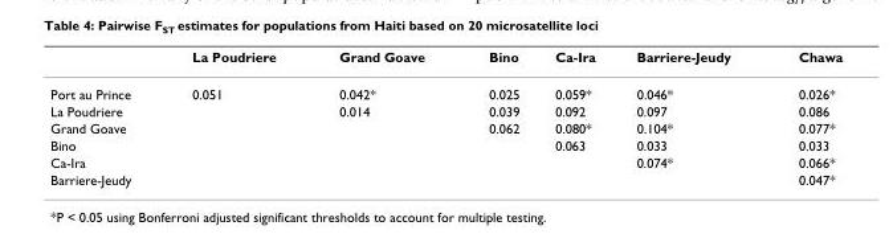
<table><thead><tr><td></td><td>La Poudriere</td><td>Grand Goave</td><td>Bino</td><td>Ca-Ira</td><td>Barriere-Jeudy</td><td>Chawa</td></tr></thead><tbody><tr><td>Port au Prince</td><td>0.051</td><td>0.042*</td><td>0.025</td><td>0.059*</td><td>0.046*</td><td>0.026*</td></tr><tr><td>La Poudriere</td><td></td><td>0.014</td><td>0.039</td><td>0.092</td><td>0.097</td><td>0.086</td></tr><tr><td>Grand Goave</td><td></td><td></td><td>0.062</td><td>0.080*</td><td>0.104*</td><td>0.077*</td></tr><tr><td>Bino</td><td></td><td></td><td></td><td>0.063</td><td>0.033</td><td>0.033</td></tr><tr><td>Ca-Ira</td><td></td><td></td><td></td><td></td><td>0.074*</td><td>0.066*</td></tr><tr><td>Barriere-Jeudy</td><td></td><td></td><td></td><td></td><td></td><td>0.047*</td></tr></tbody></table>